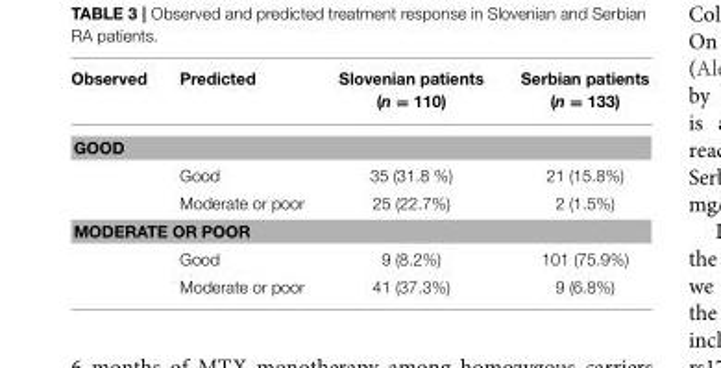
<table><thead><tr><td>Observed</td><td>Predicted</td><td>Slovenian patients (n = 110)</td><td>Serbian patients (n = 133)</td></tr></thead><tbody><tr><td colspan="4">GOOD</td></tr><tr><td></td><td>Good</td><td>35 (31.8 %)</td><td>21 (15.8%)</td></tr><tr><td></td><td>Moderate or poor</td><td>25 (22.7%)</td><td>2 (1.5%)</td></tr><tr><td colspan="4">MODERATE OR POOR</td></tr><tr><td></td><td>Good</td><td>9 (8.2%)</td><td>101 (75.9%)</td></tr><tr><td></td><td>Moderate or poor</td><td>41 (37.3%)</td><td>9 (6.8%)</td></tr></tbody></table>